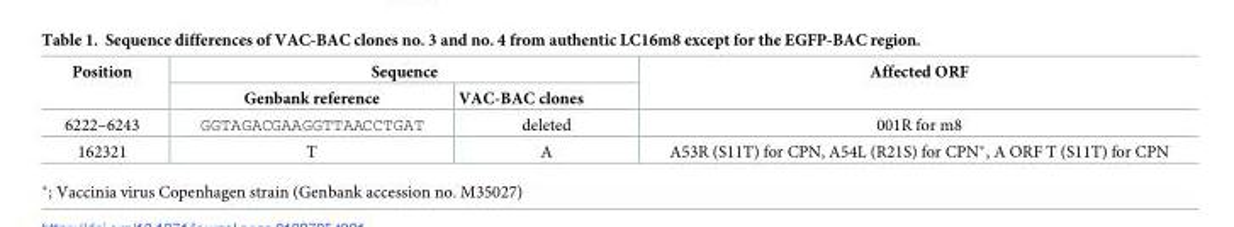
<table><thead><tr><td rowspan="2">Position</td><td colspan="2">Sequence</td><td rowspan="2">Affected ORF</td></tr><tr><td>Genbank reference</td><td>VAC-BAC clones</td></tr></thead><tbody><tr><td>6222–6243</td><td>GGTAGACGAAGGTTAACCTGAT</td><td>deleted</td><td>001R for m8</td></tr><tr><td>162321</td><td>T</td><td>A</td><td>A53R (S11T) for CPN, A54L (R21S) for CPN*, A ORF T (S11T) for CPN</td></tr></tbody></table>